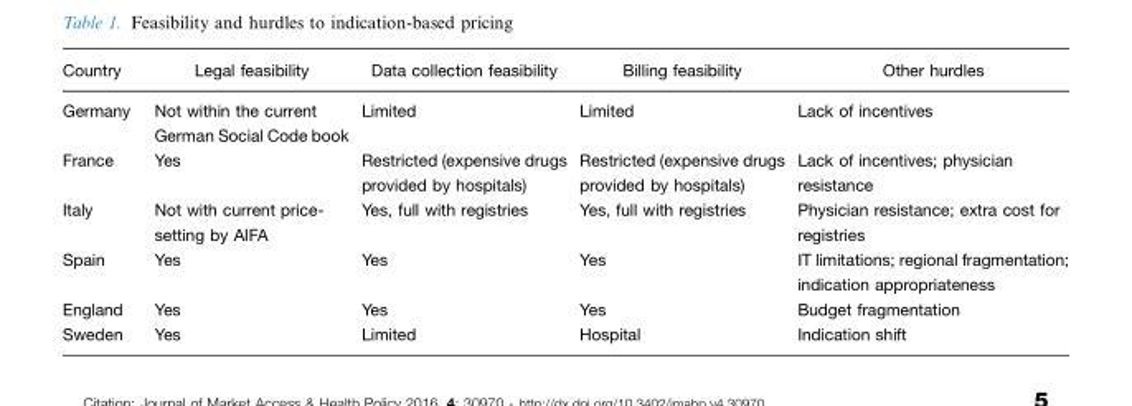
<table><thead><tr><td>Country</td><td>Legal feasibility</td><td>Data collection feasibility</td><td>Billing feasibility</td><td>Other hurdles</td></tr></thead><tbody><tr><td>Germany</td><td>Not within the current German Social Code book</td><td>Limited</td><td>Limited</td><td>Lack of incentives</td></tr><tr><td>France</td><td>Yes</td><td>Restricted (expensive drugs provided by hospitals)</td><td>Restricted (expensive drugs provided by hospitals)</td><td>Lack of incentives; physician resistance</td></tr><tr><td>Italy</td><td>Not with current price- setting by AIFA</td><td>Yes, full with registries</td><td>Yes, full with registries</td><td>Physician resistance; extra cost for registries</td></tr><tr><td>Spain</td><td>Yes</td><td>Yes</td><td>Yes</td><td>IT limitations; regional fragmentation; indication appropriateness</td></tr><tr><td>England</td><td>Yes</td><td>Yes</td><td>Yes</td><td>Budget fragmentation</td></tr><tr><td>Sweden</td><td>Yes</td><td>Limited</td><td>Hospital</td><td>Indication shift</td></tr></tbody></table>